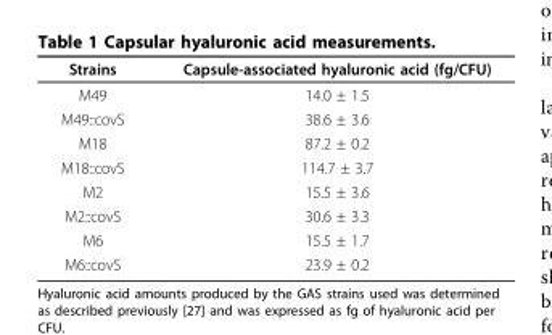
<table><thead><tr><td>Strains</td><td>Capsule-associated hyaluronic acid (fg/CFU)</td></tr></thead><tbody><tr><td>M49</td><td>14.0 ± 1.5</td></tr><tr><td>M49::covS</td><td>38.6 ± 3.6</td></tr><tr><td>M18</td><td>87.2 ± 0.2</td></tr><tr><td>M18::covS</td><td>114.7 ± 3.7</td></tr><tr><td>M2</td><td>15.5 ± 3.6</td></tr><tr><td>M2::covS</td><td>30.6 ± 3.3</td></tr><tr><td>M6</td><td>15.5 ± 1.7</td></tr><tr><td>M6::covS</td><td>23.9 ± 0.2</td></tr></tbody></table>